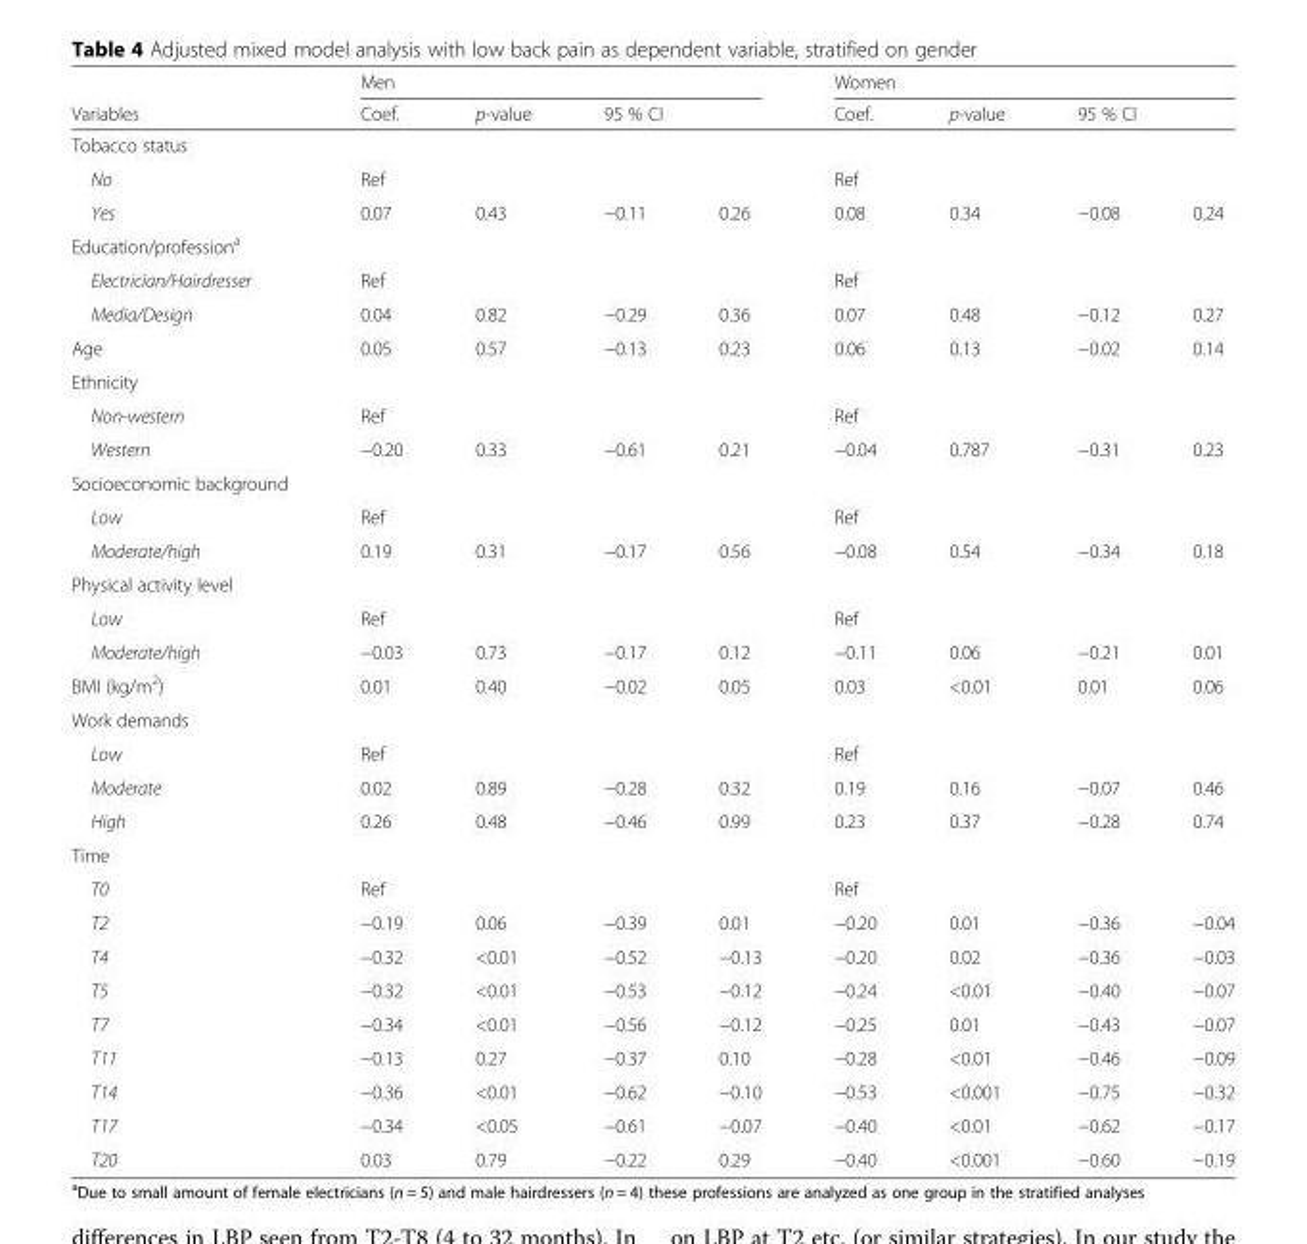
<table><thead><tr><td rowspan="3">Variables Tobacco status</td><td colspan="4">Men</td><td colspan="4">Women</td></tr><tr><td rowspan="2">Coef.</td><td rowspan="2">p-value</td><td colspan="2">95 % CI</td><td rowspan="2">Coef.</td><td rowspan="2">p-value</td><td colspan="2">95 % CI</td></tr><tr><td></td><td></td><td></td><td></td></tr></thead><tbody><tr><td>No</td><td>Ref</td><td></td><td></td><td></td><td>Ref</td><td></td><td></td><td></td></tr><tr><td>Yes</td><td>0.07</td><td>0.43</td><td>−0.11</td><td>0.26</td><td>0.08</td><td>0.34</td><td>−0.08</td><td>0.24</td></tr><tr><td colspan="9">Education/profession<sup>a</sup></td></tr><tr><td>Electrician/Hairdresser</td><td>Ref</td><td></td><td></td><td></td><td>Ref</td><td></td><td></td><td></td></tr><tr><td>Media/Design</td><td>0.04</td><td>0.82</td><td>−0.29</td><td>0.36</td><td>0.07</td><td>0.48</td><td>−0.12</td><td>0.27</td></tr><tr><td>Age</td><td>0.05</td><td>0.57</td><td>−0.13</td><td>0.23</td><td>0.06</td><td>0.13</td><td>−0.02</td><td>0.14</td></tr><tr><td colspan="9">Ethnicity</td></tr><tr><td>Non-western</td><td>Ref</td><td></td><td></td><td></td><td>Ref</td><td></td><td></td><td></td></tr><tr><td>Western</td><td>−0.20</td><td>0.33</td><td>−0.61</td><td>0.21</td><td>−0.04</td><td>0.787</td><td>−0.31</td><td>0.23</td></tr><tr><td colspan="9">Socioeconomic background</td></tr><tr><td>Low</td><td>Ref</td><td></td><td></td><td></td><td>Ref</td><td></td><td></td><td></td></tr><tr><td>Moderate/high</td><td>0.19</td><td>0.31</td><td>−0.17</td><td>0.56</td><td>−0.08</td><td>0.54</td><td>−0.34</td><td>0.18</td></tr><tr><td colspan="9">Physical activity level</td></tr><tr><td>Low</td><td>Ref</td><td></td><td></td><td></td><td>Ref</td><td></td><td></td><td></td></tr><tr><td>Moderate/high</td><td>−0.03</td><td>0.73</td><td>−0.17</td><td>0.12</td><td>−0.11</td><td>0.06</td><td>−0.21</td><td>0.01</td></tr><tr><td>BMI (kg/m<sup>2</sup>)</td><td>0.01</td><td>0.40</td><td>−0.02</td><td>0.05</td><td>0.03</td><td>&lt;0.01</td><td>0.01</td><td>0.06</td></tr><tr><td colspan="9">Work demands</td></tr><tr><td>Low</td><td>Ref</td><td></td><td></td><td></td><td>Ref</td><td></td><td></td><td></td></tr><tr><td>Moderate</td><td>0.02</td><td>0.89</td><td>−0.28</td><td>0.32</td><td>0.19</td><td>0.16</td><td>−0.07</td><td>0.46</td></tr><tr><td>High</td><td>0.26</td><td>0.48</td><td>−0.46</td><td>0.99</td><td>0.23</td><td>0.37</td><td>−0.28</td><td>0.74</td></tr><tr><td colspan="9">Time</td></tr><tr><td>T0</td><td>Ref</td><td></td><td></td><td></td><td>Ref</td><td></td><td></td><td></td></tr><tr><td>T2</td><td>−0.19</td><td>0.06</td><td>−0.39</td><td>0.01</td><td>−0.20</td><td>0.01</td><td>−0.36</td><td>−0.04</td></tr><tr><td>T4</td><td>−0.32</td><td>&lt;0.01</td><td>−0.52</td><td>−0.13</td><td>−0.20</td><td>0.02</td><td>−0.36</td><td>−0.03</td></tr><tr><td>T5</td><td>−0.32</td><td>&lt;0.01</td><td>−0.53</td><td>−0.12</td><td>−0.24</td><td>&lt;0.01</td><td>−0.40</td><td>−0.07</td></tr><tr><td>T7</td><td>−0.34</td><td>&lt;0.01</td><td>−0.56</td><td>−0.12</td><td>−0.25</td><td>0.01</td><td>−0.43</td><td>−0.07</td></tr><tr><td>T11</td><td>−0.13</td><td>0.27</td><td>−0.37</td><td>0.10</td><td>−0.28</td><td>&lt;0.01</td><td>−0.46</td><td>−0.09</td></tr><tr><td>T14</td><td>−0.36</td><td>&lt;0.01</td><td>−0.62</td><td>−0.10</td><td>−0.53</td><td>&lt;0.001</td><td>−0.75</td><td>−0.32</td></tr><tr><td>T17</td><td>−0.34</td><td>&lt;0.05</td><td>−0.61</td><td>−0.07</td><td>−0.40</td><td>&lt;0.01</td><td>−0.62</td><td>−0.17</td></tr><tr><td>T20</td><td>0.03</td><td>0.79</td><td>−0.22</td><td>0.29</td><td>−0.40</td><td>&lt;0.001</td><td>−0.60</td><td>−0.19</td></tr></tbody></table>